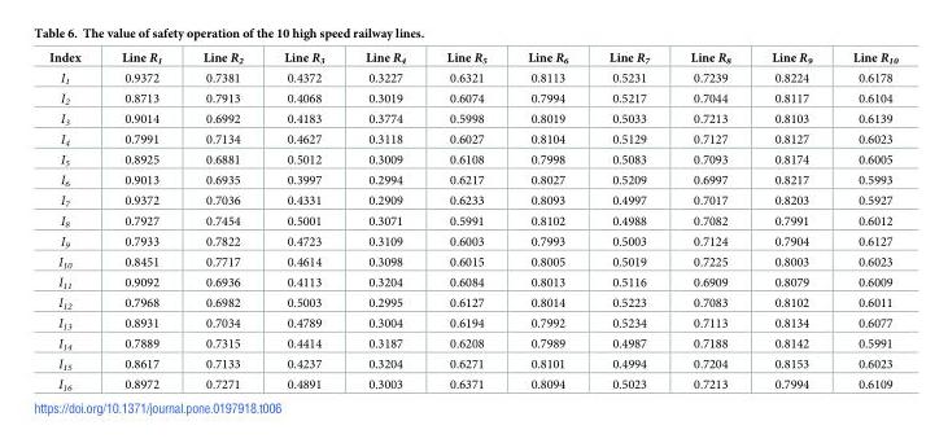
<table><thead><tr><td>Index</td><td>Line R<sub>1</sub></td><td>Line R<sub>2</sub></td><td>Line R<sub>3</sub></td><td>Line R<sub>4</sub></td><td>Line R<sub>5</sub></td><td>Line R<sub>6</sub></td><td>Line R<sub>7</sub></td><td>Line R<sub>8</sub></td><td>Line R<sub>9</sub></td><td>Line R<sub>10</sub></td></tr></thead><tbody><tr><td>I<sub>1</sub></td><td>0.9372</td><td>0.7381</td><td>0.4372</td><td>0.3227</td><td>0.6321</td><td>0.8113</td><td>0.5231</td><td>0.7239</td><td>0.8224</td><td>0.6178</td></tr><tr><td>I<sub>2</sub></td><td>0.8713</td><td>0.7913</td><td>0.4068</td><td>0.3019</td><td>0.6074</td><td>0.7994</td><td>0.5217</td><td>0.7044</td><td>0.8117</td><td>0.6104</td></tr><tr><td>I<sub>3</sub></td><td>0.9014</td><td>0.6992</td><td>0.4183</td><td>0.3774</td><td>0.5998</td><td>0.8019</td><td>0.5033</td><td>0.7213</td><td>0.8103</td><td>0.6139</td></tr><tr><td>I<sub>4</sub></td><td>0.7991</td><td>0.7134</td><td>0.4627</td><td>0.3118</td><td>0.6027</td><td>0.8104</td><td>0.5129</td><td>0.7127</td><td>0.8127</td><td>0.6023</td></tr><tr><td>I<sub>5</sub></td><td>0.8925</td><td>0.6881</td><td>0.5012</td><td>0.3009</td><td>0.6108</td><td>0.7998</td><td>0.5083</td><td>0.7093</td><td>0.8174</td><td>0.6005</td></tr><tr><td>I<sub>6</sub></td><td>0.9013</td><td>0.6935</td><td>0.3997</td><td>0.2994</td><td>0.6217</td><td>0.8027</td><td>0.5209</td><td>0.6997</td><td>0.8217</td><td>0.5993</td></tr><tr><td>I<sub>7</sub></td><td>0.9372</td><td>0.7036</td><td>0.4331</td><td>0.2909</td><td>0.6233</td><td>0.8093</td><td>0.4997</td><td>0.7017</td><td>0.8203</td><td>0.5927</td></tr><tr><td>I<sub>8</sub></td><td>0.7927</td><td>0.7454</td><td>0.5001</td><td>0.3071</td><td>0.5991</td><td>0.8102</td><td>0.4988</td><td>0.7082</td><td>0.7991</td><td>0.6012</td></tr><tr><td>I<sub>9</sub></td><td>0.7933</td><td>0.7822</td><td>0.4723</td><td>0.3109</td><td>0.6003</td><td>0.7993</td><td>0.5003</td><td>0.7124</td><td>0.7904</td><td>0.6127</td></tr><tr><td>I<sub>10</sub></td><td>0.8451</td><td>0.7717</td><td>0.4614</td><td>0.3098</td><td>0.6015</td><td>0.8005</td><td>0.5019</td><td>0.7225</td><td>0.8003</td><td>0.6023</td></tr><tr><td>I<sub>11</sub></td><td>0.9092</td><td>0.6936</td><td>0.4113</td><td>0.3204</td><td>0.6084</td><td>0.8013</td><td>0.5116</td><td>0.6909</td><td>0.8079</td><td>0.6009</td></tr><tr><td>I<sub>12</sub></td><td>0.7968</td><td>0.6982</td><td>0.5003</td><td>0.2995</td><td>0.6127</td><td>0.8014</td><td>0.5223</td><td>0.7083</td><td>0.8102</td><td>0.6011</td></tr><tr><td>I<sub>13</sub></td><td>0.8931</td><td>0.7034</td><td>0.4789</td><td>0.3004</td><td>0.6194</td><td>0.7992</td><td>0.5234</td><td>0.7113</td><td>0.8134</td><td>0.6077</td></tr><tr><td>I<sub>14</sub></td><td>0.7889</td><td>0.7315</td><td>0.4414</td><td>0.3187</td><td>0.6208</td><td>0.7989</td><td>0.4987</td><td>0.7188</td><td>0.8142</td><td>0.5991</td></tr><tr><td>I<sub>15</sub></td><td>0.8617</td><td>0.7133</td><td>0.4237</td><td>0.3204</td><td>0.6271</td><td>0.8101</td><td>0.4994</td><td>0.7204</td><td>0.8153</td><td>0.6023</td></tr><tr><td>I<sub>16</sub></td><td>0.8972</td><td>0.7271</td><td>0.4891</td><td>0.3003</td><td>0.6371</td><td>0.8094</td><td>0.5023</td><td>0.7213</td><td>0.7994</td><td>0.6109</td></tr></tbody></table>